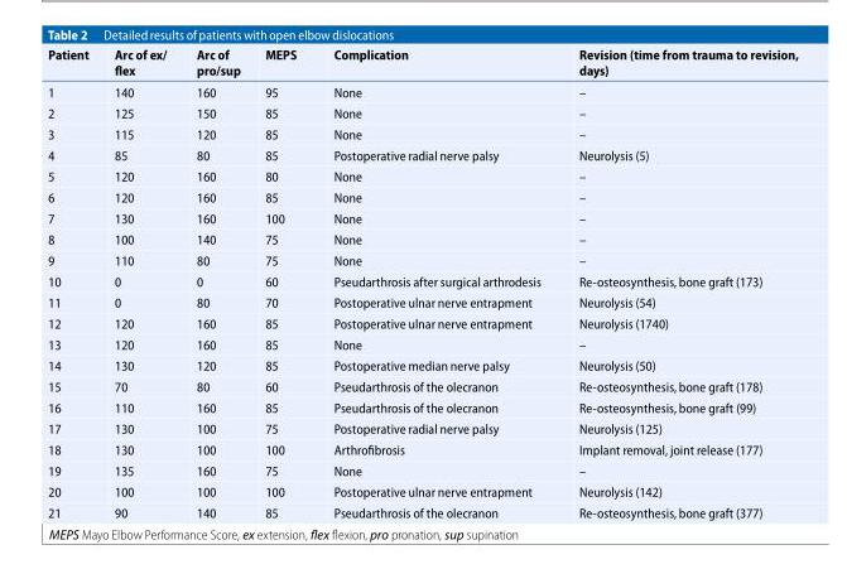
<table><thead><tr><td>Patient</td><td>Arc of ex/ flex</td><td>Arc of pro/sup</td><td>MEPS</td><td>Complication</td><td>Revision (time from trauma to revision, days)</td></tr></thead><tbody><tr><td>1</td><td>140</td><td>160</td><td>95</td><td>None</td><td>–</td></tr><tr><td>2</td><td>125</td><td>150</td><td>85</td><td>None</td><td>–</td></tr><tr><td>3</td><td>115</td><td>120</td><td>85</td><td>None</td><td>–</td></tr><tr><td>4</td><td>85</td><td>80</td><td>85</td><td>Postoperative radial nerve palsy</td><td>Neurolysis (5)</td></tr><tr><td>5</td><td>120</td><td>160</td><td>80</td><td>None</td><td>–</td></tr><tr><td>6</td><td>120</td><td>160</td><td>85</td><td>None</td><td>–</td></tr><tr><td>7</td><td>130</td><td>160</td><td>100</td><td>None</td><td>–</td></tr><tr><td>8</td><td>100</td><td>140</td><td>75</td><td>None</td><td>–</td></tr><tr><td>9</td><td>110</td><td>80</td><td>75</td><td>None</td><td>–</td></tr><tr><td>10</td><td>0</td><td>0</td><td>60</td><td>Pseudarthrosis after surgical arthrodesis</td><td>Re-osteosynthesis, bone graft (173)</td></tr><tr><td>11</td><td>0</td><td>80</td><td>70</td><td>Postoperative ulnar nerve entrapment</td><td>Neurolysis (54)</td></tr><tr><td>12</td><td>120</td><td>160</td><td>85</td><td>Postoperative ulnar nerve entrapment</td><td>Neurolysis (1740)</td></tr><tr><td>13</td><td>120</td><td>160</td><td>85</td><td>None</td><td>–</td></tr><tr><td>14</td><td>130</td><td>120</td><td>85</td><td>Postoperative median nerve palsy</td><td>Neurolysis (50)</td></tr><tr><td>15</td><td>70</td><td>80</td><td>60</td><td>Pseudarthrosis of the olecranon</td><td>Re-osteosynthesis, bone graft (178)</td></tr><tr><td>16</td><td>110</td><td>160</td><td>85</td><td>Pseudarthrosis of the olecranon</td><td>Re-osteosynthesis, bone graft (99)</td></tr><tr><td>17</td><td>130</td><td>100</td><td>75</td><td>Postoperative radial nerve palsy</td><td>Neurolysis (125)</td></tr><tr><td>18</td><td>130</td><td>100</td><td>100</td><td>Arthrofibrosis</td><td>Implant removal, joint release (177)</td></tr><tr><td>19</td><td>135</td><td>160</td><td>75</td><td>None</td><td>–</td></tr><tr><td>20</td><td>100</td><td>100</td><td>100</td><td>Postoperative ulnar nerve entrapment</td><td>Neurolysis (142)</td></tr><tr><td>21</td><td>90</td><td>140</td><td>85</td><td>Pseudarthrosis of the olecranon</td><td>Re-osteosynthesis, bone graft (377)</td></tr></tbody></table>